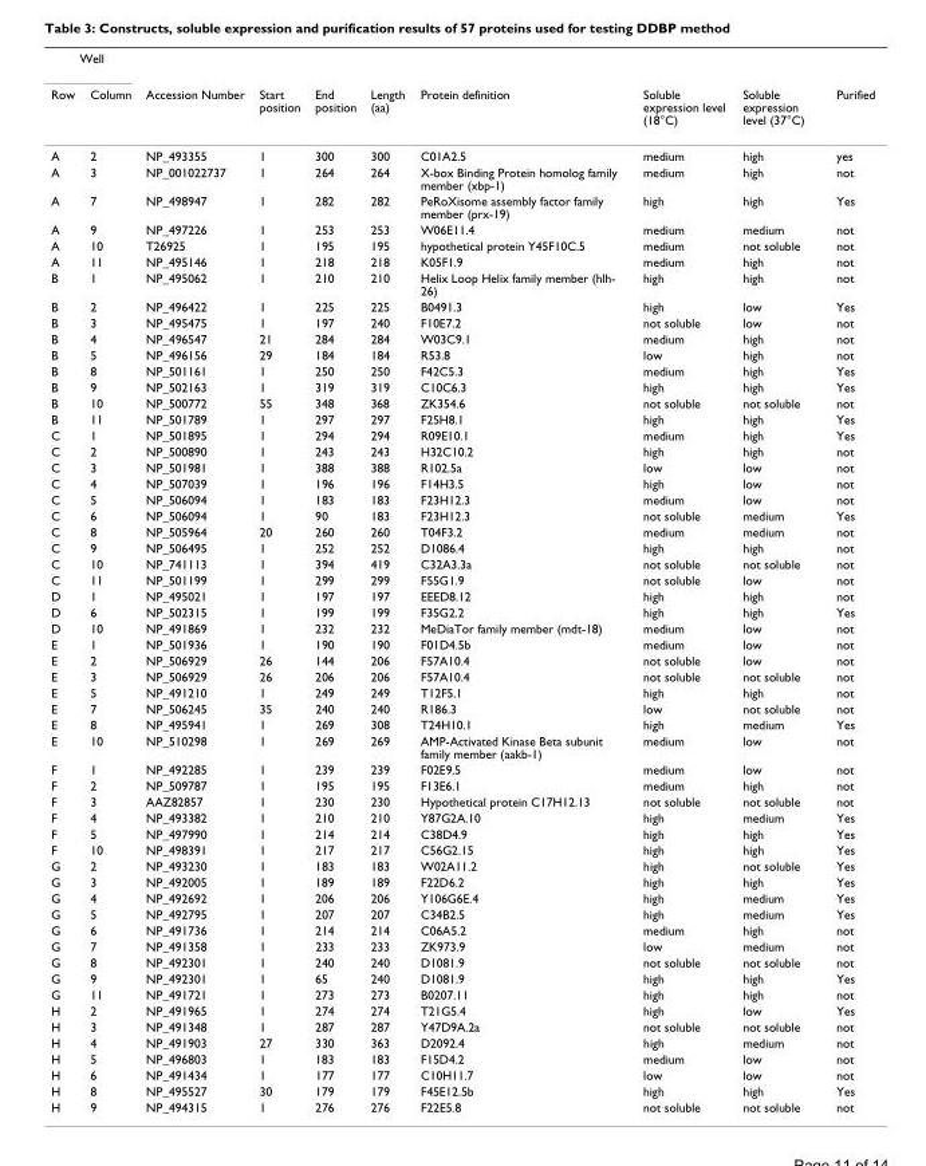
<table><thead><tr><td colspan="2">Well</td><td rowspan="2">Accession Number</td><td rowspan="2">Start position</td><td rowspan="2">End position</td><td rowspan="2">Length (aa)</td><td rowspan="2">Protein definition</td><td rowspan="2">Soluble expression level (18°C)</td><td rowspan="2">Soluble expression level (37°C)</td><td rowspan="2">Purified</td></tr><tr><td>Row</td><td>Column</td></tr></thead><tbody><tr><td>A</td><td>2</td><td>NP_493355</td><td>1</td><td>300</td><td>300</td><td>C01A2.5</td><td>medium</td><td>high</td><td>yes</td></tr><tr><td>A</td><td>3</td><td>NP_001022737</td><td>1</td><td>264</td><td>264</td><td>X-box Binding Protein homolog family member (xbp-1)</td><td>medium</td><td>high</td><td>not</td></tr><tr><td>A</td><td>7</td><td>NP_498947</td><td>1</td><td>282</td><td>282</td><td>PeRoXisome assembly factor family member (prx-19)</td><td>high</td><td>high</td><td>Yes</td></tr><tr><td>A</td><td>9</td><td>NP_497226</td><td>1</td><td>253</td><td>253</td><td>W06E11.4</td><td>medium</td><td>medium</td><td>not</td></tr><tr><td>A</td><td>10</td><td>T26925</td><td>1</td><td>195</td><td>195</td><td>hypothetical protein Y45F10C.5</td><td>medium</td><td>not soluble</td><td>not</td></tr><tr><td>A</td><td>11</td><td>NP_495146</td><td>1</td><td>218</td><td>218</td><td>K05F1.9</td><td>medium</td><td>high</td><td>not</td></tr><tr><td>B</td><td>1</td><td>NP_495062</td><td>1</td><td>210</td><td>210</td><td>Helix Loop Helix family member (hlh- 26)</td><td>high</td><td>high</td><td>not</td></tr><tr><td>B</td><td>2</td><td>NP_496422</td><td>1</td><td>225</td><td>225</td><td>B0491.3</td><td>high</td><td>low</td><td>Yes</td></tr><tr><td>B</td><td>3</td><td>NP_495475</td><td>1</td><td>197</td><td>240</td><td>F10E7.2</td><td>not soluble</td><td>low</td><td>not</td></tr><tr><td>B</td><td>4</td><td>NP_496547</td><td>21</td><td>284</td><td>284</td><td>W03C9.1</td><td>medium</td><td>high</td><td>not</td></tr><tr><td>B</td><td>5</td><td>NP_496156</td><td>29</td><td>184</td><td>184</td><td>R53.8</td><td>low</td><td>high</td><td>not</td></tr><tr><td>B</td><td>8</td><td>NP_501161</td><td>1</td><td>250</td><td>250</td><td>F42C5.3</td><td>medium</td><td>high</td><td>Yes</td></tr><tr><td>B</td><td>9</td><td>NP_502163</td><td>1</td><td>319</td><td>319</td><td>C10C6.3</td><td>high</td><td>high</td><td>Yes</td></tr><tr><td>B</td><td>10</td><td>NP_500772</td><td>55</td><td>348</td><td>368</td><td>ZK354.6</td><td>not soluble</td><td>not soluble</td><td>not</td></tr><tr><td>B</td><td>11</td><td>NP_501789</td><td>1</td><td>297</td><td>297</td><td>F25H8.1</td><td>high</td><td>high</td><td>Yes</td></tr><tr><td>C</td><td>1</td><td>NP_501895</td><td>1</td><td>294</td><td>294</td><td>R09E10.1</td><td>medium</td><td>high</td><td>Yes</td></tr><tr><td>C</td><td>2</td><td>NP_500890</td><td>1</td><td>243</td><td>243</td><td>H32C10.2</td><td>high</td><td>high</td><td>not</td></tr><tr><td>C</td><td>3</td><td>NP_501981</td><td>1</td><td>388</td><td>388</td><td>R102.5a</td><td>low</td><td>low</td><td>not</td></tr><tr><td>C</td><td>4</td><td>NP_507039</td><td>1</td><td>196</td><td>196</td><td>F14H3.5</td><td>high</td><td>low</td><td>not</td></tr><tr><td>C</td><td>5</td><td>NP_506094</td><td>1</td><td>183</td><td>183</td><td>F23H12.3</td><td>medium</td><td>low</td><td>not</td></tr><tr><td>C</td><td>6</td><td>NP_506094</td><td>1</td><td>90</td><td>183</td><td>F23H12.3</td><td>not soluble</td><td>medium</td><td>Yes</td></tr><tr><td>C</td><td>8</td><td>NP_505964</td><td>20</td><td>260</td><td>260</td><td>T04F3.2</td><td>medium</td><td>medium</td><td>not</td></tr><tr><td>C</td><td>9</td><td>NP_506495</td><td>1</td><td>252</td><td>252</td><td>D1086.4</td><td>high</td><td>high</td><td>not</td></tr><tr><td>C</td><td>10</td><td>NP_741113</td><td>1</td><td>394</td><td>419</td><td>C32A3.3a</td><td>not soluble</td><td>not soluble</td><td>not</td></tr><tr><td>C</td><td>11</td><td>NP_501199</td><td>1</td><td>299</td><td>299</td><td>F55G1.9</td><td>not soluble</td><td>low</td><td>not</td></tr><tr><td>D</td><td>1</td><td>NP_495021</td><td>1</td><td>197</td><td>197</td><td>EEED8.12</td><td>high</td><td>high</td><td>not</td></tr><tr><td>D</td><td>6</td><td>NP_502315</td><td>1</td><td>199</td><td>199</td><td>F35G2.2</td><td>high</td><td>high</td><td>Yes</td></tr><tr><td>D</td><td>10</td><td>NP_491869</td><td>1</td><td>232</td><td>232</td><td>MeDiaTor family member (mdt-18)</td><td>medium</td><td>low</td><td>not</td></tr><tr><td>E</td><td>1</td><td>NP_501936</td><td>1</td><td>190</td><td>190</td><td>F01D4.5b</td><td>medium</td><td>low</td><td>not</td></tr><tr><td>E</td><td>2</td><td>NP_506929</td><td>26</td><td>144</td><td>206</td><td>F57A10.4</td><td>not soluble</td><td>low</td><td>not</td></tr><tr><td>E</td><td>3</td><td>NP_506929</td><td>26</td><td>206</td><td>206</td><td>F57A10.4</td><td>not soluble</td><td>not soluble</td><td>not</td></tr><tr><td>E</td><td>5</td><td>NP_491210</td><td>1</td><td>249</td><td>249</td><td>T12F5.1</td><td>high</td><td>high</td><td>not</td></tr><tr><td>E</td><td>7</td><td>NP_506245</td><td>35</td><td>240</td><td>240</td><td>R186.3</td><td>low</td><td>not soluble</td><td>not</td></tr><tr><td>E</td><td>8</td><td>NP_495941</td><td>1</td><td>269</td><td>308</td><td>T24H10.1</td><td>high</td><td>medium</td><td>Yes</td></tr><tr><td>E</td><td>10</td><td>NP_510298</td><td>1</td><td>269</td><td>269</td><td>AMP-Activated Kinase Beta subunit family member (aakb-1)</td><td>medium</td><td>low</td><td>not</td></tr><tr><td>F</td><td>1</td><td>NP_492285</td><td>1</td><td>239</td><td>239</td><td>F02E9.5</td><td>medium</td><td>low</td><td>not</td></tr><tr><td>F</td><td>2</td><td>NP_509787</td><td>1</td><td>195</td><td>195</td><td>F13E6.1</td><td>medium</td><td>high</td><td>not</td></tr><tr><td>F</td><td>3</td><td>AAZ82857</td><td>1</td><td>230</td><td>230</td><td>Hypothetical protein C17H12.13</td><td>not soluble</td><td>not soluble</td><td>not</td></tr><tr><td>F</td><td>4</td><td>NP_493382</td><td>1</td><td>210</td><td>210</td><td>Y87G2A.10</td><td>high</td><td>medium</td><td>Yes</td></tr><tr><td>F</td><td>5</td><td>NP_497990</td><td>1</td><td>214</td><td>214</td><td>C38D4.9</td><td>high</td><td>high</td><td>Yes</td></tr><tr><td>F</td><td>10</td><td>NP_498391</td><td>1</td><td>217</td><td>217</td><td>C56G2.15</td><td>high</td><td>high</td><td>Yes</td></tr><tr><td>G</td><td>2</td><td>NP_493230</td><td>1</td><td>183</td><td>183</td><td>W02A11.2</td><td>high</td><td>not soluble</td><td>Yes</td></tr><tr><td>G</td><td>3</td><td>NP_492005</td><td>1</td><td>189</td><td>189</td><td>F22D6.2</td><td>high</td><td>high</td><td>Yes</td></tr><tr><td>G</td><td>4</td><td>NP_492692</td><td>1</td><td>206</td><td>206</td><td>Y106G6E.4</td><td>high</td><td>medium</td><td>Yes</td></tr><tr><td>G</td><td>5</td><td>NP_492795</td><td>1</td><td>207</td><td>207</td><td>C34B2.5</td><td>high</td><td>medium</td><td>Yes</td></tr><tr><td>G</td><td>6</td><td>NP_491736</td><td>1</td><td>214</td><td>214</td><td>C06A5.2</td><td>medium</td><td>high</td><td>not</td></tr><tr><td>G</td><td>7</td><td>NP_491358</td><td>1</td><td>233</td><td>233</td><td>ZK973.9</td><td>low</td><td>medium</td><td>not</td></tr><tr><td>G</td><td>8</td><td>NP_492301</td><td>1</td><td>240</td><td>240</td><td>D1081.9</td><td>not soluble</td><td>not soluble</td><td>not</td></tr><tr><td>G</td><td>9</td><td>NP_492301</td><td>1</td><td>65</td><td>240</td><td>D1081.9</td><td>high</td><td>high</td><td>Yes</td></tr><tr><td>G</td><td>11</td><td>NP_491721</td><td>1</td><td>273</td><td>273</td><td>B0207.11</td><td>high</td><td>high</td><td>not</td></tr><tr><td>H</td><td>2</td><td>NP_491965</td><td>1</td><td>274</td><td>274</td><td>T21G5.4</td><td>high</td><td>low</td><td>Yes</td></tr><tr><td>H</td><td>3</td><td>NP_491348</td><td>1</td><td>287</td><td>287</td><td>Y47D9A.2a</td><td>not soluble</td><td>not soluble</td><td>not</td></tr><tr><td>H</td><td>4</td><td>NP_491903</td><td>27</td><td>330</td><td>363</td><td>D2092.4</td><td>high</td><td>medium</td><td>not</td></tr><tr><td>H</td><td>5</td><td>NP_496803</td><td>1</td><td>183</td><td>183</td><td>F15D4.2</td><td>medium</td><td>low</td><td>not</td></tr><tr><td>H</td><td>6</td><td>NP_491434</td><td>1</td><td>177</td><td>177</td><td>C10H11.7</td><td>low</td><td>low</td><td>not</td></tr><tr><td>H</td><td>8</td><td>NP_495527</td><td>30</td><td>179</td><td>179</td><td>F45E12.5b</td><td>high</td><td>high</td><td>Yes</td></tr><tr><td>H</td><td>9</td><td>NP_494315</td><td>1</td><td>276</td><td>276</td><td>F22E5.8</td><td>not soluble</td><td>not soluble</td><td>not</td></tr></tbody></table>